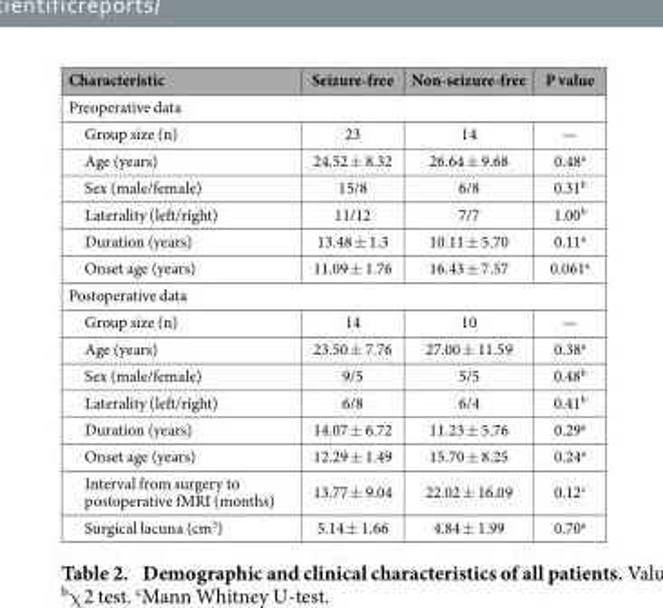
<table><thead><tr><td>Characteristic</td><td>Seizure-free</td><td>Non-seizure-free</td><td>P value</td></tr></thead><tbody><tr><td colspan="4">Preoperative data</td></tr><tr><td>Group size (n)</td><td>23</td><td>14</td><td>—</td></tr><tr><td>Age (years)</td><td>24.52 ± 8.32</td><td>26.64 ± 9.68</td><td>0.48<sup>a</sup></td></tr><tr><td>Sex (male/female)</td><td>15/8</td><td>6/8</td><td>0.31<sup>b</sup></td></tr><tr><td>Laterality (left/right)</td><td>11/12</td><td>7/7</td><td>1.00<sup>b</sup></td></tr><tr><td>Duration (years)</td><td>13.48 ± 1.3</td><td>10.11 ± 5.70</td><td>0.11<sup>a</sup></td></tr><tr><td>Onset age (years)</td><td>11.09 ± 1.76</td><td>16.43 ± 7.57</td><td>0.061<sup>a</sup></td></tr><tr><td colspan="4">Postoperative data</td></tr><tr><td>Group size (n)</td><td>14</td><td>10</td><td>—</td></tr><tr><td>Age (years)</td><td>23.50 ± 7.76</td><td>27.00 ± 11.59</td><td>0.38<sup>a</sup></td></tr><tr><td>Sex (male/female)</td><td>9/5</td><td>5/5</td><td>0.48<sup>b</sup></td></tr><tr><td>Laterality (left/right)</td><td>6/8</td><td>6/4</td><td>0.41<sup>b</sup></td></tr><tr><td>Duration (years)</td><td>14.07 ± 6.72</td><td>11.23 ± 5.76</td><td>0.29<sup>a</sup></td></tr><tr><td>Onset age (years)</td><td>12.29 ± 1.49</td><td>15.70 ± 8.25</td><td>0.24<sup>a</sup></td></tr><tr><td>Interval from surgery to postoperative fMRI (months)</td><td>13.77 ± 9.04</td><td>22.02 ± 16.09</td><td>0.12<sup>c</sup></td></tr><tr><td>Surgical lacuna (cm<sup>3</sup>)</td><td>5.14 ± 1.66</td><td>4.84 ± 1.99</td><td>0.70<sup>a</sup></td></tr></tbody></table>